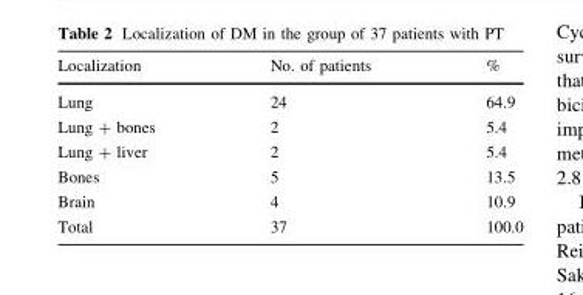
<table><thead><tr><td>Localization</td><td>No. of patients</td><td>%</td></tr></thead><tbody><tr><td>Lung</td><td>24</td><td>64.9</td></tr><tr><td>Lung + bones</td><td>2</td><td>5.4</td></tr><tr><td>Lung + liver</td><td>2</td><td>5.4</td></tr><tr><td>Bones</td><td>5</td><td>13.5</td></tr><tr><td>Brain</td><td>4</td><td>10.9</td></tr><tr><td>Total</td><td>37</td><td>100.0</td></tr></tbody></table>